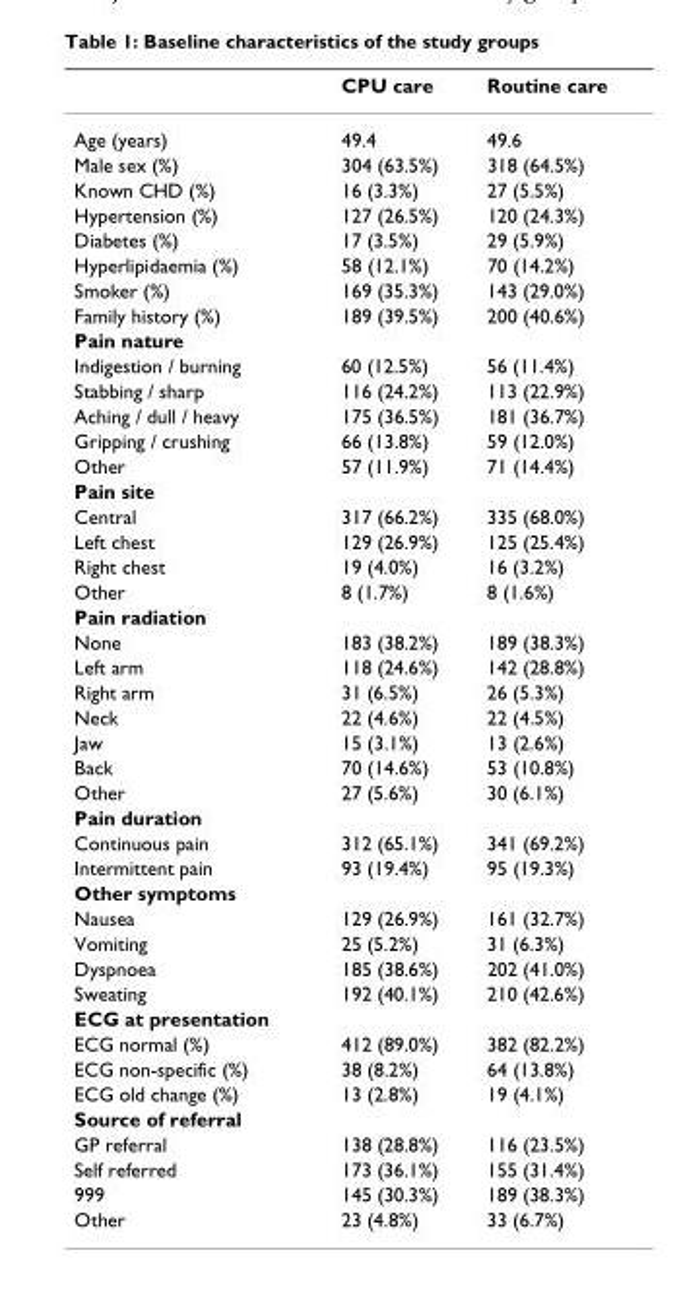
<table><thead><tr><td></td><td>CPU care</td><td>Routine care</td></tr></thead><tbody><tr><td>Age (years)</td><td>49.4</td><td>49.6</td></tr><tr><td>Male sex (%)</td><td>304 (63.5%)</td><td>318 (64.5%)</td></tr><tr><td>Known CHD (%)</td><td>16 (3.3%)</td><td>27 (5.5%)</td></tr><tr><td>Hypertension (%)</td><td>127 (26.5%)</td><td>120 (24.3%)</td></tr><tr><td>Diabetes (%)</td><td>17 (3.5%)</td><td>29 (5.9%)</td></tr><tr><td>Hyperlipidaemia (%)</td><td>58 (12.1%)</td><td>70 (14.2%)</td></tr><tr><td>Smoker (%)</td><td>169 (35.3%)</td><td>143 (29.0%)</td></tr><tr><td>Family history (%)</td><td>189 (39.5%)</td><td>200 (40.6%)</td></tr><tr><td colspan="3">Pain nature</td></tr><tr><td>Indigestion / burning</td><td>60 (12.5%)</td><td>56 (11.4%)</td></tr><tr><td>Stabbing / sharp</td><td>116 (24.2%)</td><td>113 (22.9%)</td></tr><tr><td>Aching / dull / heavy</td><td>175 (36.5%)</td><td>181 (36.7%)</td></tr><tr><td>Gripping / crushing</td><td>66 (13.8%)</td><td>59 (12.0%)</td></tr><tr><td>Other</td><td>57 (11.9%)</td><td>71 (14.4%)</td></tr><tr><td colspan="3">Pain site</td></tr><tr><td>Central</td><td>317 (66.2%)</td><td>335 (68.0%)</td></tr><tr><td>Left chest</td><td>129 (26.9%)</td><td>125 (25.4%)</td></tr><tr><td>Right chest</td><td>19 (4.0%)</td><td>16 (3.2%)</td></tr><tr><td>Other</td><td>8 (1.7%)</td><td>8 (1.6%)</td></tr><tr><td colspan="3">Pain radiation</td></tr><tr><td>None</td><td>183 (38.2%)</td><td>189 (38.3%)</td></tr><tr><td>Left arm</td><td>118 (24.6%)</td><td>142 (28.8%)</td></tr><tr><td>Right arm</td><td>31 (6.5%)</td><td>26 (5.3%)</td></tr><tr><td>Neck</td><td>22 (4.6%)</td><td>22 (4.5%)</td></tr><tr><td>Jaw</td><td>15 (3.1%)</td><td>13 (2.6%)</td></tr><tr><td>Back</td><td>70 (14.6%)</td><td>53 (10.8%)</td></tr><tr><td>Other</td><td>27 (5.6%)</td><td>30 (6.1%)</td></tr><tr><td colspan="3">Pain duration</td></tr><tr><td>Continuous pain</td><td>312 (65.1%)</td><td>341 (69.2%)</td></tr><tr><td>Intermittent pain</td><td>93 (19.4%)</td><td>95 (19.3%)</td></tr><tr><td colspan="3">Other symptoms</td></tr><tr><td>Nausea</td><td>129 (26.9%)</td><td>161 (32.7%)</td></tr><tr><td>Vomiting</td><td>25 (5.2%)</td><td>31 (6.3%)</td></tr><tr><td>Dyspnoea</td><td>185 (38.6%)</td><td>202 (41.0%)</td></tr><tr><td>Sweating</td><td>192 (40.1%)</td><td>210 (42.6%)</td></tr><tr><td colspan="3">ECG at presentation</td></tr><tr><td>ECG normal (%)</td><td>412 (89.0%)</td><td>382 (82.2%)</td></tr><tr><td>ECG non-specific (%)</td><td>38 (8.2%)</td><td>64 (13.8%)</td></tr><tr><td>ECG old change (%)</td><td>13 (2.8%)</td><td>19 (4.1%)</td></tr><tr><td colspan="3">Source of referral</td></tr><tr><td>GP referral</td><td>138 (28.8%)</td><td>116 (23.5%)</td></tr><tr><td>Self referred</td><td>173 (36.1%)</td><td>155 (31.4%)</td></tr><tr><td>999</td><td>145 (30.3%)</td><td>189 (38.3%)</td></tr><tr><td>Other</td><td>23 (4.8%)</td><td>33 (6.7%)</td></tr></tbody></table>